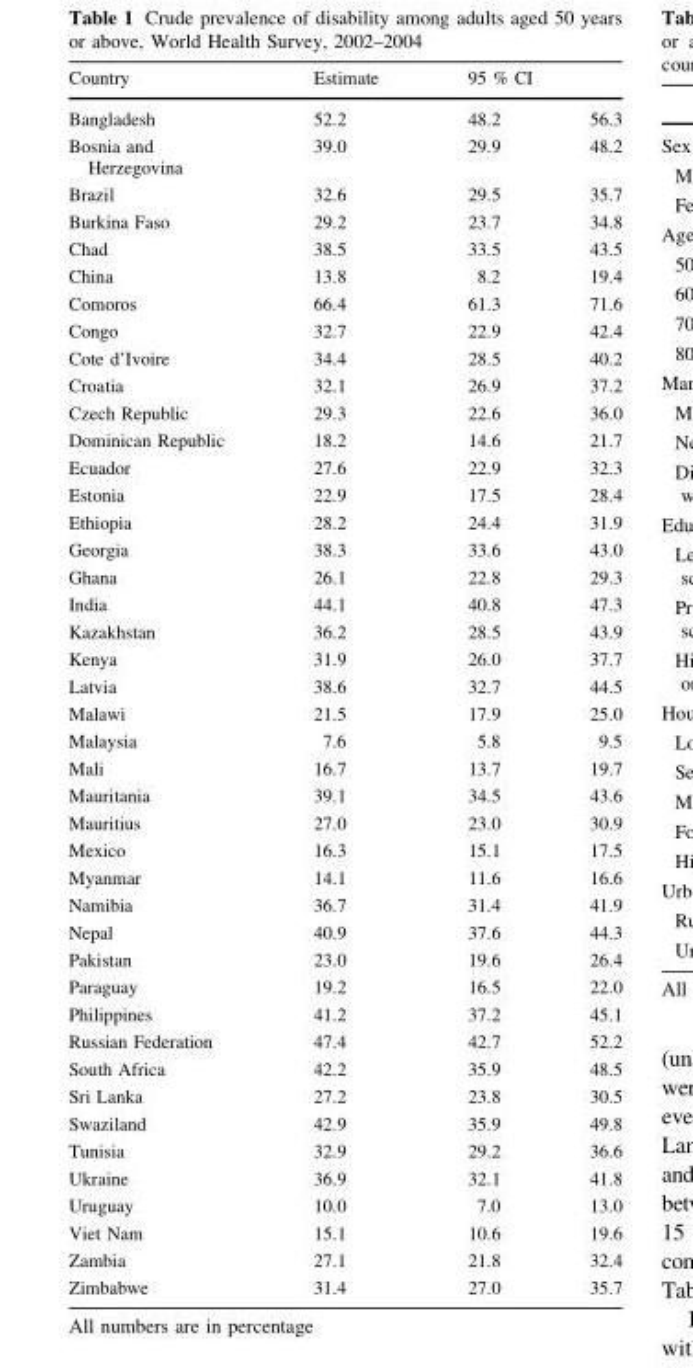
<table><thead><tr><td rowspan="2">Country Bangladesh</td><td rowspan="2">Estimate 52.2</td><td colspan="2">95 % CI</td></tr><tr><td>48.2</td><td>56.3</td></tr></thead><tbody><tr><td>Bosnia and Herzegovina</td><td>39.0</td><td>29.9</td><td>48.2</td></tr><tr><td>Brazil</td><td>32.6</td><td>29.5</td><td>35.7</td></tr><tr><td>Burkina Faso</td><td>29.2</td><td>23.7</td><td>34.8</td></tr><tr><td>Chad</td><td>38.5</td><td>33.5</td><td>43.5</td></tr><tr><td>China</td><td>13.8</td><td>8.2</td><td>19.4</td></tr><tr><td>Comoros</td><td>66.4</td><td>61.3</td><td>71.6</td></tr><tr><td>Congo</td><td>32.7</td><td>22.9</td><td>42.4</td></tr><tr><td>Cote d’Ivoire</td><td>34.4</td><td>28.5</td><td>40.2</td></tr><tr><td>Croatia</td><td>32.1</td><td>26.9</td><td>37.2</td></tr><tr><td>Czech Republic</td><td>29.3</td><td>22.6</td><td>36.0</td></tr><tr><td>Dominican Republic</td><td>18.2</td><td>14.6</td><td>21.7</td></tr><tr><td>Ecuador</td><td>27.6</td><td>22.9</td><td>32.3</td></tr><tr><td>Estonia</td><td>22.9</td><td>17.5</td><td>28.4</td></tr><tr><td>Ethiopia</td><td>28.2</td><td>24.4</td><td>31.9</td></tr><tr><td>Georgia</td><td>38.3</td><td>33.6</td><td>43.0</td></tr><tr><td>Ghana</td><td>26.1</td><td>22.8</td><td>29.3</td></tr><tr><td>India</td><td>44.1</td><td>40.8</td><td>47.3</td></tr><tr><td>Kazakhstan</td><td>36.2</td><td>28.5</td><td>43.9</td></tr><tr><td>Kenya</td><td>31.9</td><td>26.0</td><td>37.7</td></tr><tr><td>Latvia</td><td>38.6</td><td>32.7</td><td>44.5</td></tr><tr><td>Malawi</td><td>21.5</td><td>17.9</td><td>25.0</td></tr><tr><td>Malaysia</td><td>7.6</td><td>5.8</td><td>9.5</td></tr><tr><td>Mali</td><td>16.7</td><td>13.7</td><td>19.7</td></tr><tr><td>Mauritania</td><td>39.1</td><td>34.5</td><td>43.6</td></tr><tr><td>Mauritius</td><td>27.0</td><td>23.0</td><td>30.9</td></tr><tr><td>Mexico</td><td>16.3</td><td>15.1</td><td>17.5</td></tr><tr><td>Myanmar</td><td>14.1</td><td>11.6</td><td>16.6</td></tr><tr><td>Namibia</td><td>36.7</td><td>31.4</td><td>41.9</td></tr><tr><td>Nepal</td><td>40.9</td><td>37.6</td><td>44.3</td></tr><tr><td>Pakistan</td><td>23.0</td><td>19.6</td><td>26.4</td></tr><tr><td>Paraguay</td><td>19.2</td><td>16.5</td><td>22.0</td></tr><tr><td>Philippines</td><td>41.2</td><td>37.2</td><td>45.1</td></tr><tr><td>Russian Federation</td><td>47.4</td><td>42.7</td><td>52.2</td></tr><tr><td>South Africa</td><td>42.2</td><td>35.9</td><td>48.5</td></tr><tr><td>Sri Lanka</td><td>27.2</td><td>23.8</td><td>30.5</td></tr><tr><td>Swaziland</td><td>42.9</td><td>35.9</td><td>49.8</td></tr><tr><td>Tunisia</td><td>32.9</td><td>29.2</td><td>36.6</td></tr><tr><td>Ukraine</td><td>36.9</td><td>32.1</td><td>41.8</td></tr><tr><td>Uruguay</td><td>10.0</td><td>7.0</td><td>13.0</td></tr><tr><td>Viet Nam</td><td>15.1</td><td>10.6</td><td>19.6</td></tr><tr><td>Zambia</td><td>27.1</td><td>21.8</td><td>32.4</td></tr><tr><td>Zimbabwe</td><td>31.4</td><td>27.0</td><td>35.7</td></tr></tbody></table>